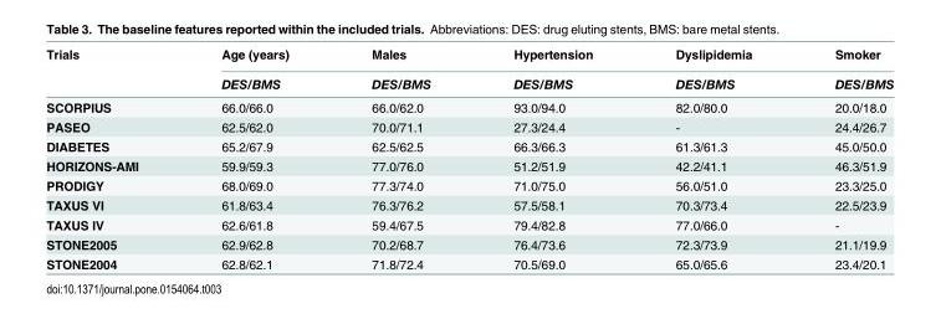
<table><thead><tr><td rowspan="2">Trials</td><td rowspan="2">Age (years) DES/BMS</td><td rowspan="2">Males DES/BMS</td><td rowspan="2">Hypertension DES/BMS</td><td rowspan="2">Dyslipidemia DES/BMS</td><td rowspan="2">Smoker DES/BMS</td></tr><tr></tr></thead><tbody><tr><td>SCORPIUS</td><td>66.0/66.0</td><td>66.0/62.0</td><td>93.0/94.0</td><td>82.0/80.0</td><td>20.0/18.0</td></tr><tr><td>PASEO</td><td>62.5/62.0</td><td>70.0/71.1</td><td>27.3/24.4</td><td>-</td><td>24.4/26.7</td></tr><tr><td>DIABETES</td><td>65.2/67.9</td><td>62.5/62.5</td><td>66.3/66.3</td><td>61.3/61.3</td><td>45.0/50.0</td></tr><tr><td>HORIZONS-AMI</td><td>59.9/59.3</td><td>77.0/76.0</td><td>51.2/51.9</td><td>42.2/41.1</td><td>46.3/51.9</td></tr><tr><td>PRODIGY</td><td>68.0/69.0</td><td>77.3/74.0</td><td>71.0/75.0</td><td>56.0/51.0</td><td>23.3/25.0</td></tr><tr><td>TAXUS VI</td><td>61.8/63.4</td><td>76.3/76.2</td><td>57.5/58.1</td><td>70.3/73.4</td><td>22.5/23.9</td></tr><tr><td>TAXUS IV</td><td>62.6/61.8</td><td>59.4/67.5</td><td>79.4/82.8</td><td>77.0/66.0</td><td>-</td></tr><tr><td>STONE2005</td><td>62.9/62.8</td><td>70.2/68.7</td><td>76.4/73.6</td><td>72.3/73.9</td><td>21.1/19.9</td></tr><tr><td>STONE2004</td><td>62.8/62.1</td><td>71.8/72.4</td><td>70.5/69.0</td><td>65.0/65.6</td><td>23.4/20.1</td></tr></tbody></table>